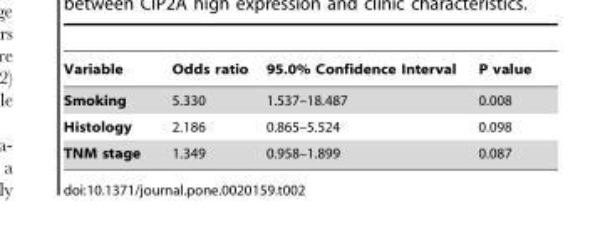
<table><thead><tr><td>Variable</td><td>Odds ratio</td><td>95.0% Confidence Interval</td><td>P value</td></tr></thead><tbody><tr><td>Smoking</td><td>5.330</td><td>1.537–18.487</td><td>0.008</td></tr><tr><td>Histology</td><td>2.186</td><td>0.865–5.524</td><td>0.098</td></tr><tr><td>TNM stage</td><td>1.349</td><td>0.958–1.899</td><td>0.087</td></tr></tbody></table>